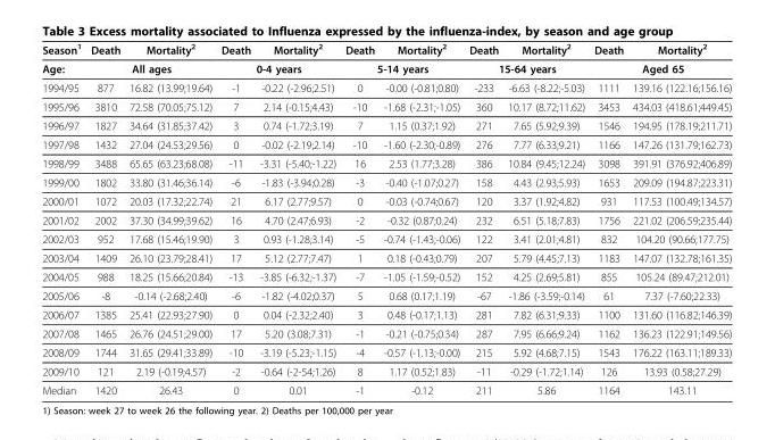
<table><thead><tr><td>Season1</td><td>Death</td><td>Mortality2</td><td>Death</td><td>Mortality2</td><td>Death</td><td>Mortality2</td><td>Death</td><td>Mortality2</td><td>Death</td><td>Mortality2</td></tr></thead><tbody><tr><td>Age:</td><td colspan="2">All ages</td><td colspan="2">0-4 years</td><td colspan="2">5-14 years</td><td colspan="2">15-64 years</td><td colspan="2">Aged 65</td></tr><tr><td>1994/95</td><td>877</td><td>16.82 (13.99;19.64)</td><td>-1</td><td>-0.22 (-2.96;2.51)</td><td>0</td><td>-0.00 (-0.81;0.80)</td><td>-233</td><td>-6.63 (-8.22;-5.03)</td><td>1111</td><td>139.16 (122.16;156.16)</td></tr><tr><td>1995/96</td><td>3810</td><td>72.58 (70.05;75.12)</td><td>7</td><td>2.14 (-0.15;4.43)</td><td>-10</td><td>-1.68 (-2.31;-1.05)</td><td>360</td><td>10.17 (8.72;11.62)</td><td>3453</td><td>434.03 (418.61;449.45)</td></tr><tr><td>1996/97</td><td>1827</td><td>34.64 (31.85;37.42)</td><td>3</td><td>0.74 (-1.72;3.19)</td><td>7</td><td>1.15 (0.37;1.92)</td><td>271</td><td>7.65 (5.92;9.39)</td><td>1546</td><td>194.95 (178.19;211.71)</td></tr><tr><td>1997/98</td><td>1432</td><td>27.04 (24.53;29.56)</td><td>0</td><td>-0.02 (-2.19;2.14)</td><td>-10</td><td>-1.60 (-2.30;-0.89)</td><td>276</td><td>7.77 (6.33;9.21)</td><td>1166</td><td>147.26 (131.79;162.73)</td></tr><tr><td>1998/99</td><td>3488</td><td>65.65 (63.23;68.08)</td><td>-11</td><td>-3.31 (-5.40;-1.22)</td><td>16</td><td>2.53 (1.77;3.28)</td><td>386</td><td>10.84 (9.45;12.24)</td><td>3098</td><td>391.91 (376.92;406.89)</td></tr><tr><td>1999/00</td><td>1802</td><td>33.80 (31.46;36.14)</td><td>-6</td><td>-1.83 (-3.94;0.28)</td><td>-3</td><td>-0.40 (-1.07;0.27)</td><td>158</td><td>4.43 (2.93;5.93)</td><td>1653</td><td>209.09 (194.87;223.31)</td></tr><tr><td>2000/01</td><td>1072</td><td>20.03 (17.32;22.74)</td><td>21</td><td>6.17 (2.77;9.57)</td><td>0</td><td>-0.03 (-0.74;0.67)</td><td>120</td><td>3.37 (1.92;4.82)</td><td>931</td><td>117.53 (100.49;134.57)</td></tr><tr><td>2001/02</td><td>2002</td><td>37.30 (34.99;39.62)</td><td>16</td><td>4.70 (2.47;6.93)</td><td>-2</td><td>-0.32 (0.87;0.24)</td><td>232</td><td>6.51 (5.18;7.83)</td><td>1756</td><td>221.02 (206.59;235.44)</td></tr><tr><td>2002/03</td><td>952</td><td>17.68 (15.46;19.90)</td><td>3</td><td>0.93 (-1.28;3.14)</td><td>-5</td><td>-0.74 (-1.43;-0.06)</td><td>122</td><td>3.41 (2.01;4.81)</td><td>832</td><td>104.20 (90.66;177.75)</td></tr><tr><td>2003/04</td><td>1409</td><td>26.10 (23.79;28.41)</td><td>17</td><td>5.12 (2.77;7.47)</td><td>1</td><td>0.18 (-0.43;0.79)</td><td>207</td><td>5.79 (4.45;7.13)</td><td>1183</td><td>147.07 (132.78;161.35)</td></tr><tr><td>2004/05</td><td>988</td><td>18.25 (15.66;20.84)</td><td>-13</td><td>-3.85 (-6.32;-1.37)</td><td>-7</td><td>-1.05 (-1.59;-0.52)</td><td>152</td><td>4.25 (2.69;5.81)</td><td>855</td><td>105.24 (89.47;212.01)</td></tr><tr><td>2005/06</td><td>-8</td><td>-0.14 (-2.68;2.40)</td><td>-6</td><td>-1.82 (-4.02;0.37)</td><td>5</td><td>0.68 (0.17;1.19)</td><td>-67</td><td>-1.86 (-3.59;-0.14)</td><td>61</td><td>7.37 (-7.60;22.33)</td></tr><tr><td>2006/07</td><td>1385</td><td>25.41 (22.93;27.90)</td><td>0</td><td>0.04 (-2.32;2.40)</td><td>3</td><td>0.48 (-0.17;1.13)</td><td>281</td><td>7.82 (6.31;9.33)</td><td>1100</td><td>131.60 (116.82;146.39)</td></tr><tr><td>2007/08</td><td>1465</td><td>26.76 (24.51;29.00)</td><td>17</td><td>5.20 (3.08;7.31)</td><td>-1</td><td>-0.21 (-0.75;0.34)</td><td>287</td><td>7.95 (6.66;9.24)</td><td>1162</td><td>136.23 (122.91;149.56)</td></tr><tr><td>2008/09</td><td>1744</td><td>31.65 (29.41;33.89)</td><td>-10</td><td>-3.19 (-5.23;-1.15)</td><td>-4</td><td>-0.57 (-1.13;-0.00)</td><td>215</td><td>5.92 (4.68;7.15)</td><td>1543</td><td>176.22 (163.11;189.33)</td></tr><tr><td>2009/10</td><td>121</td><td>2.19 (-0.19;4.57)</td><td>-2</td><td>-0.64 (-2-54;1.26)</td><td>8</td><td>1.17 (0.52;1.83)</td><td>-11</td><td>-0.29 (-1.72;1.14)</td><td>126</td><td>13.93 (0.58;27.29)</td></tr><tr><td>Median</td><td>1420</td><td>26.43</td><td>0</td><td>0.01</td><td>-1</td><td>-0.12</td><td>211</td><td>5.86</td><td>1164</td><td>143.11</td></tr></tbody></table>